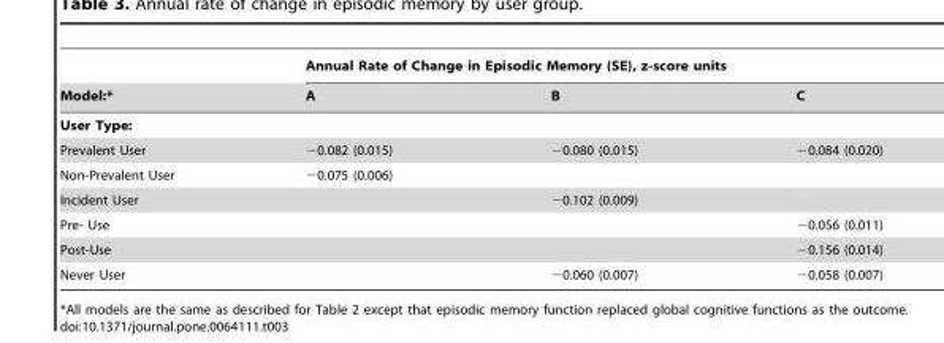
<table><thead><tr><td rowspan="2">Model:*</td><td colspan="3">Annual Rate of Change in Episodic Memory (SE), z-score units</td></tr><tr><td>A</td><td>B</td><td>C</td></tr></thead><tbody><tr><td colspan="4">User Type:</td></tr><tr><td>Prevalent User</td><td>−0.082 (0.015)</td><td>−0.080 (0.015)</td><td>−0.084 (0.020)</td></tr><tr><td>Non-Prevalent User</td><td>−0.075 (0.006)</td><td></td><td></td></tr><tr><td>Incident User</td><td></td><td>−0.102 (0.009)</td><td></td></tr><tr><td>Pre- Use</td><td></td><td></td><td>−0.056 (0.011)</td></tr><tr><td>Post-Use</td><td></td><td></td><td>−0.156 (0.014)</td></tr><tr><td>Never User</td><td></td><td>−0.060 (0.007)</td><td>−0.058 (0.007)</td></tr></tbody></table>